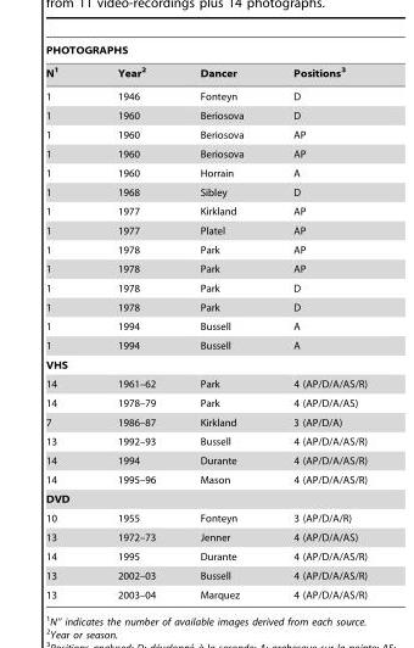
<table><thead><tr><td colspan="4">PHOTOGRAPHS</td></tr><tr><td>N<sup>1</sup></td><td>Year<sup>2</sup></td><td>Dancer</td><td>Positions<sup>3</sup></td></tr></thead><tbody><tr><td>1</td><td>1946</td><td>Fonteyn</td><td>D</td></tr><tr><td>1</td><td>1960</td><td>Beriosova</td><td>D</td></tr><tr><td>1</td><td>1960</td><td>Beriosova</td><td>AP</td></tr><tr><td>1</td><td>1960</td><td>Beriosova</td><td>AP</td></tr><tr><td>1</td><td>1960</td><td>Horrain</td><td>A</td></tr><tr><td>1</td><td>1968</td><td>Sibley</td><td>D</td></tr><tr><td>1</td><td>1977</td><td>Kirkland</td><td>AP</td></tr><tr><td>1</td><td>1977</td><td>Platel</td><td>AP</td></tr><tr><td>1</td><td>1978</td><td>Park</td><td>AP</td></tr><tr><td>1</td><td>1978</td><td>Park</td><td>AP</td></tr><tr><td>1</td><td>1978</td><td>Park</td><td>D</td></tr><tr><td>1</td><td>1978</td><td>Park</td><td>D</td></tr><tr><td>1</td><td>1994</td><td>Bussell</td><td>A</td></tr><tr><td>1</td><td>1994</td><td>Bussell</td><td>A</td></tr><tr><td colspan="4">VHS</td></tr><tr><td>14</td><td>1961–62</td><td>Park</td><td>4 (AP/D/A/AS/R)</td></tr><tr><td>14</td><td>1978–79</td><td>Park</td><td>4 (AP/D/A/AS)</td></tr><tr><td>7</td><td>1986–87</td><td>Kirkland</td><td>3 (AP/D/A)</td></tr><tr><td>13</td><td>1992–93</td><td>Bussell</td><td>4 (AP/D/A/AS/R)</td></tr><tr><td>14</td><td>1994</td><td>Durante</td><td>4 (AP/D/A/AS/R)</td></tr><tr><td>14</td><td>1995–96</td><td>Mason</td><td>4 (AP/D/A/AS/R)</td></tr><tr><td colspan="4">DVD</td></tr><tr><td>10</td><td>1955</td><td>Fonteyn</td><td>3 (AP/D/A/R)</td></tr><tr><td>13</td><td>1972–73</td><td>Jenner</td><td>4 (AP/D/A/AS)</td></tr><tr><td>14</td><td>1995</td><td>Durante</td><td>4 (AP/D/A/AS/R)</td></tr><tr><td>13</td><td>2002–03</td><td>Bussell</td><td>4 (AP/D/A/AS/R)</td></tr><tr><td>13</td><td>2003–04</td><td>Marquez</td><td>4 (AP/D/A/AS/R)</td></tr></tbody></table>